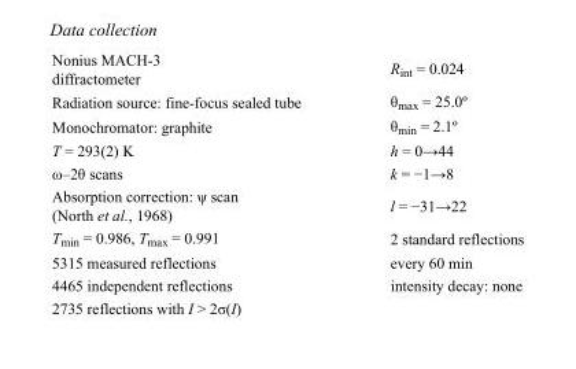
<table><tbody><tr><td>Nonius MACH-3 diffractometer</td><td>R<sub>int</sub> = 0.024</td></tr><tr><td>Radiation source: fine-focus sealed tube</td><td>θ<sub>max</sub> = 25.0º</td></tr><tr><td>Monochromator: graphite</td><td>θ<sub>min</sub> = 2.1º</td></tr><tr><td>T = 293(2) K</td><td>h = 0→44</td></tr><tr><td>ω–2θ scans</td><td>k = −1→8</td></tr><tr><td>Absorption correction: ψ scan (North et al., 1968)</td><td>l = −31→22</td></tr><tr><td>T<sub>min</sub> = 0.986, T<sub>max</sub> = 0.991</td><td>2 standard reflections</td></tr><tr><td>5315 measured reflections</td><td>every 60 min</td></tr><tr><td>4465 independent reflections</td><td>intensity decay: none</td></tr><tr><td>2735 reflections with I &gt; 2σ(I)</td><td></td></tr></tbody></table>